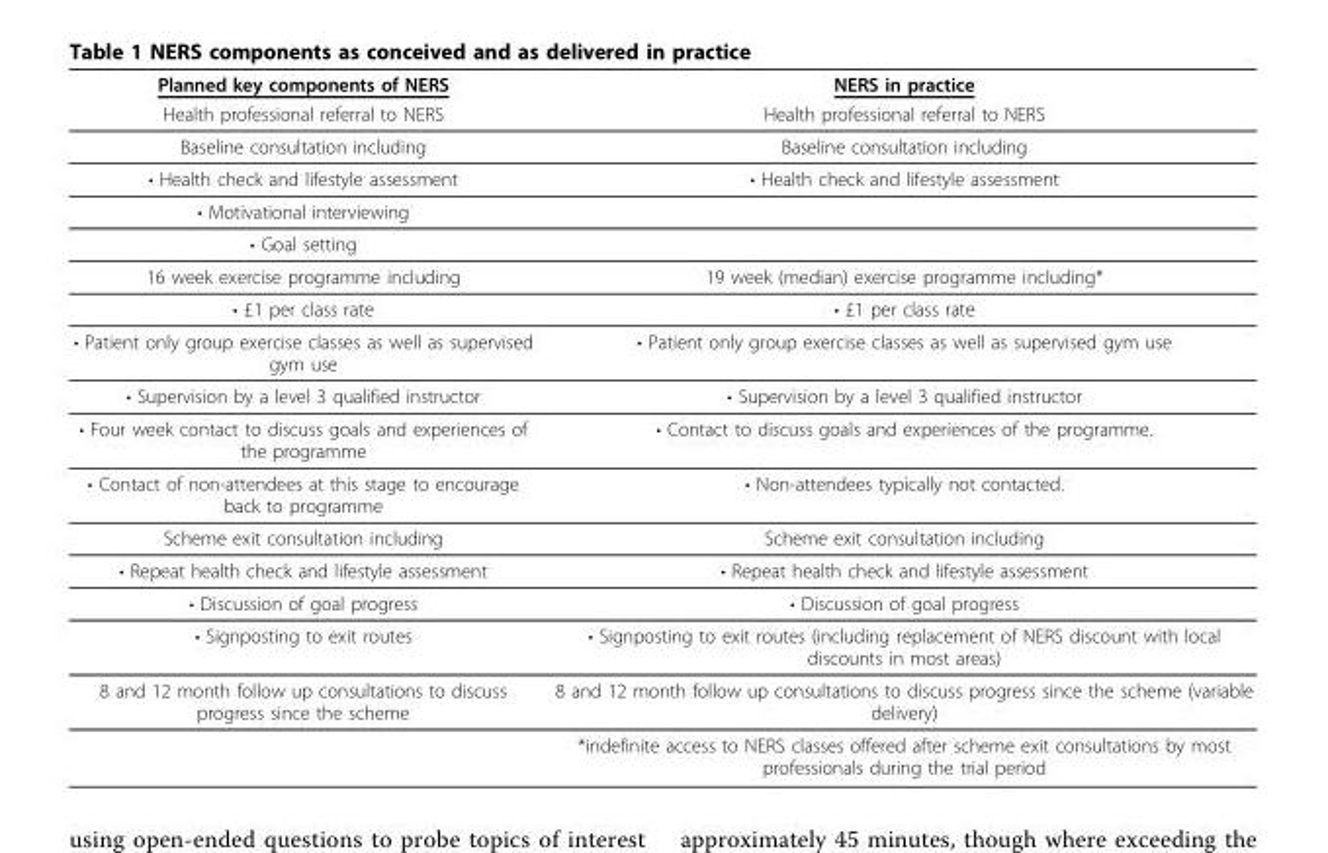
<table><thead><tr><td rowspan="2">Planned key components of NERS Health professional referral to NERS</td><td rowspan="2">NERS in practice Health professional referral to NERS</td></tr><tr></tr></thead><tbody><tr><td>Baseline consultation including</td><td>Baseline consultation including</td></tr><tr><td>• Health check and lifestyle assessment</td><td>• Health check and lifestyle assessment</td></tr><tr><td colspan="2">• Motivational interviewing</td></tr><tr><td colspan="2">• Goal setting</td></tr><tr><td>16 week exercise programme including</td><td>19 week (median) exercise programme including*</td></tr><tr><td>• £1 per class rate</td><td>• £1 per class rate</td></tr><tr><td>• Patient only group exercise classes as well as supervised gym use</td><td>• Patient only group exercise classes as well as supervised gym use</td></tr><tr><td>• Supervision by a level 3 qualified instructor</td><td>• Supervision by a level 3 qualified instructor</td></tr><tr><td>• Four week contact to discuss goals and experiences of the programme</td><td>• Contact to discuss goals and experiences of the programme.</td></tr><tr><td>• Contact of non-attendees at this stage to encourage back to programme</td><td>• Non-attendees typically not contacted.</td></tr><tr><td>Scheme exit consultation including</td><td>Scheme exit consultation including</td></tr><tr><td>• Repeat health check and lifestyle assessment</td><td>• Repeat health check and lifestyle assessment</td></tr><tr><td>• Discussion of goal progress</td><td>• Discussion of goal progress</td></tr><tr><td>• Signposting to exit routes</td><td>• Signposting to exit routes (including replacement of NERS discount with local discounts in most areas)</td></tr><tr><td rowspan="2">8 and 12 month follow up consultations to discuss progress since the scheme</td><td>8 and 12 month follow up consultations to discuss progress since the scheme (variable delivery)</td></tr><tr><td>*indefinite access to NERS classes offered after scheme exit consultations by most professionals during the trial period</td></tr></tbody></table>